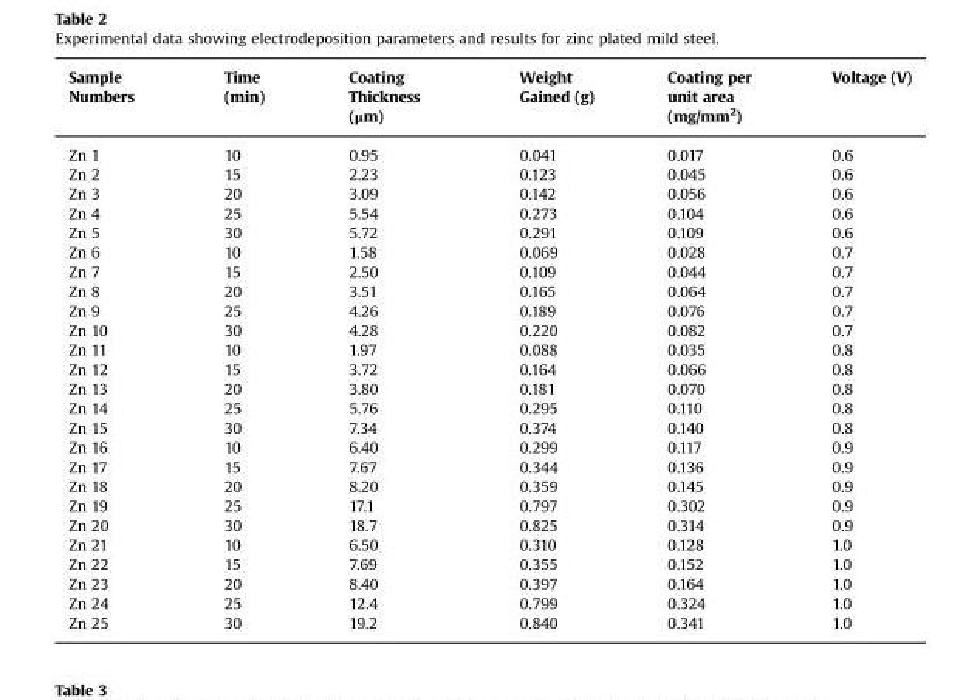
<table><thead><tr><td>Sample Numbers</td><td>Time (min)</td><td>Coating Thickness (μm)</td><td>Weight Gained (g)</td><td>Coating per unit area (mg/mm<sup>2</sup>)</td><td>Voltage (V)</td></tr></thead><tbody><tr><td>Zn 1</td><td>10</td><td>0.95</td><td>0.041</td><td>0.017</td><td>0.6</td></tr><tr><td>Zn 2</td><td>15</td><td>2.23</td><td>0.123</td><td>0.045</td><td>0.6</td></tr><tr><td>Zn 3</td><td>20</td><td>3.09</td><td>0.142</td><td>0.056</td><td>0.6</td></tr><tr><td>Zn 4</td><td>25</td><td>5.54</td><td>0.273</td><td>0.104</td><td>0.6</td></tr><tr><td>Zn 5</td><td>30</td><td>5.72</td><td>0.291</td><td>0.109</td><td>0.6</td></tr><tr><td>Zn 6</td><td>10</td><td>1.58</td><td>0.069</td><td>0.028</td><td>0.7</td></tr><tr><td>Zn 7</td><td>15</td><td>2.50</td><td>0.109</td><td>0.044</td><td>0.7</td></tr><tr><td>Zn 8</td><td>20</td><td>3.51</td><td>0.165</td><td>0.064</td><td>0.7</td></tr><tr><td>Zn 9</td><td>25</td><td>4.26</td><td>0.189</td><td>0.076</td><td>0.7</td></tr><tr><td>Zn 10</td><td>30</td><td>4.28</td><td>0.220</td><td>0.082</td><td>0.7</td></tr><tr><td>Zn 11</td><td>10</td><td>1.97</td><td>0.088</td><td>0.035</td><td>0.8</td></tr><tr><td>Zn 12</td><td>15</td><td>3.72</td><td>0.164</td><td>0.066</td><td>0.8</td></tr><tr><td>Zn 13</td><td>20</td><td>3.80</td><td>0.181</td><td>0.070</td><td>0.8</td></tr><tr><td>Zn 14</td><td>25</td><td>5.76</td><td>0.295</td><td>0.110</td><td>0.8</td></tr><tr><td>Zn 15</td><td>30</td><td>7.34</td><td>0.374</td><td>0.140</td><td>0.8</td></tr><tr><td>Zn 16</td><td>10</td><td>6.40</td><td>0.299</td><td>0.117</td><td>0.9</td></tr><tr><td>Zn 17</td><td>15</td><td>7.67</td><td>0.344</td><td>0.136</td><td>0.9</td></tr><tr><td>Zn 18</td><td>20</td><td>8.20</td><td>0.359</td><td>0.145</td><td>0.9</td></tr><tr><td>Zn 19</td><td>25</td><td>17.1</td><td>0.797</td><td>0.302</td><td>0.9</td></tr><tr><td>Zn 20</td><td>30</td><td>18.7</td><td>0.825</td><td>0.314</td><td>0.9</td></tr><tr><td>Zn 21</td><td>10</td><td>6.50</td><td>0.310</td><td>0.128</td><td>1.0</td></tr><tr><td>Zn 22</td><td>15</td><td>7.69</td><td>0.355</td><td>0.152</td><td>1.0</td></tr><tr><td>Zn 23</td><td>20</td><td>8.40</td><td>0.397</td><td>0.164</td><td>1.0</td></tr><tr><td>Zn 24</td><td>25</td><td>12.4</td><td>0.799</td><td>0.324</td><td>1.0</td></tr><tr><td>Zn 25</td><td>30</td><td>19.2</td><td>0.840</td><td>0.341</td><td>1.0</td></tr></tbody></table>